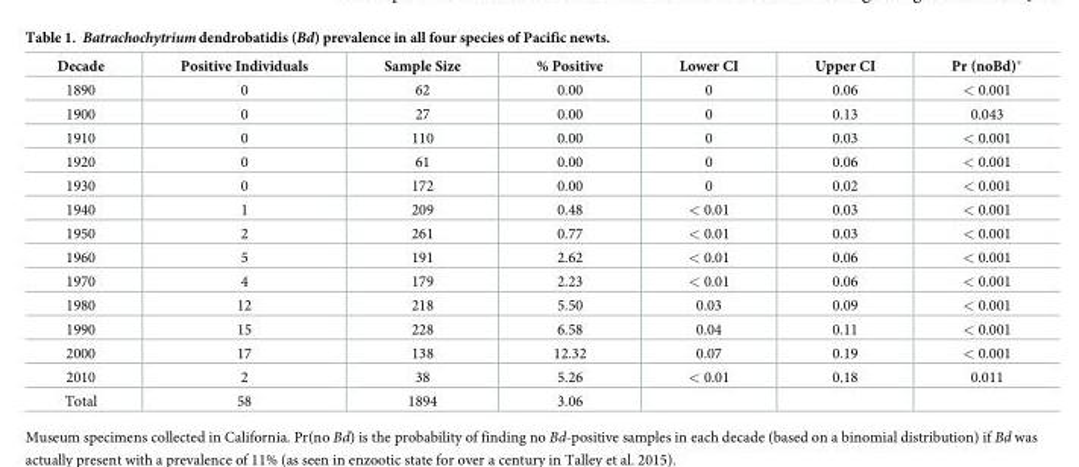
<table><thead><tr><td>Decade</td><td>Positive Individuals</td><td>Sample Size</td><td>% Positive</td><td>Lower CI</td><td>Upper CI</td><td>Pr (noBd)*</td></tr></thead><tbody><tr><td>1890</td><td>0</td><td>62</td><td>0.00</td><td>0</td><td>0.06</td><td>&lt; 0.001</td></tr><tr><td>1900</td><td>0</td><td>27</td><td>0.00</td><td>0</td><td>0.13</td><td>0.043</td></tr><tr><td>1910</td><td>0</td><td>110</td><td>0.00</td><td>0</td><td>0.03</td><td>&lt; 0.001</td></tr><tr><td>1920</td><td>0</td><td>61</td><td>0.00</td><td>0</td><td>0.06</td><td>&lt; 0.001</td></tr><tr><td>1930</td><td>0</td><td>172</td><td>0.00</td><td>0</td><td>0.02</td><td>&lt; 0.001</td></tr><tr><td>1940</td><td>1</td><td>209</td><td>0.48</td><td>&lt; 0.01</td><td>0.03</td><td>&lt; 0.001</td></tr><tr><td>1950</td><td>2</td><td>261</td><td>0.77</td><td>&lt; 0.01</td><td>0.03</td><td>&lt; 0.001</td></tr><tr><td>1960</td><td>5</td><td>191</td><td>2.62</td><td>&lt; 0.01</td><td>0.06</td><td>&lt; 0.001</td></tr><tr><td>1970</td><td>4</td><td>179</td><td>2.23</td><td>&lt; 0.01</td><td>0.06</td><td>&lt; 0.001</td></tr><tr><td>1980</td><td>12</td><td>218</td><td>5.50</td><td>0.03</td><td>0.09</td><td>&lt; 0.001</td></tr><tr><td>1990</td><td>15</td><td>228</td><td>6.58</td><td>0.04</td><td>0.11</td><td>&lt; 0.001</td></tr><tr><td>2000</td><td>17</td><td>138</td><td>12.32</td><td>0.07</td><td>0.19</td><td>&lt; 0.001</td></tr><tr><td>2010</td><td>2</td><td>38</td><td>5.26</td><td>&lt; 0.01</td><td>0.18</td><td>0.011</td></tr><tr><td>Total</td><td>58</td><td>1894</td><td>3.06</td><td></td><td></td><td></td></tr></tbody></table>